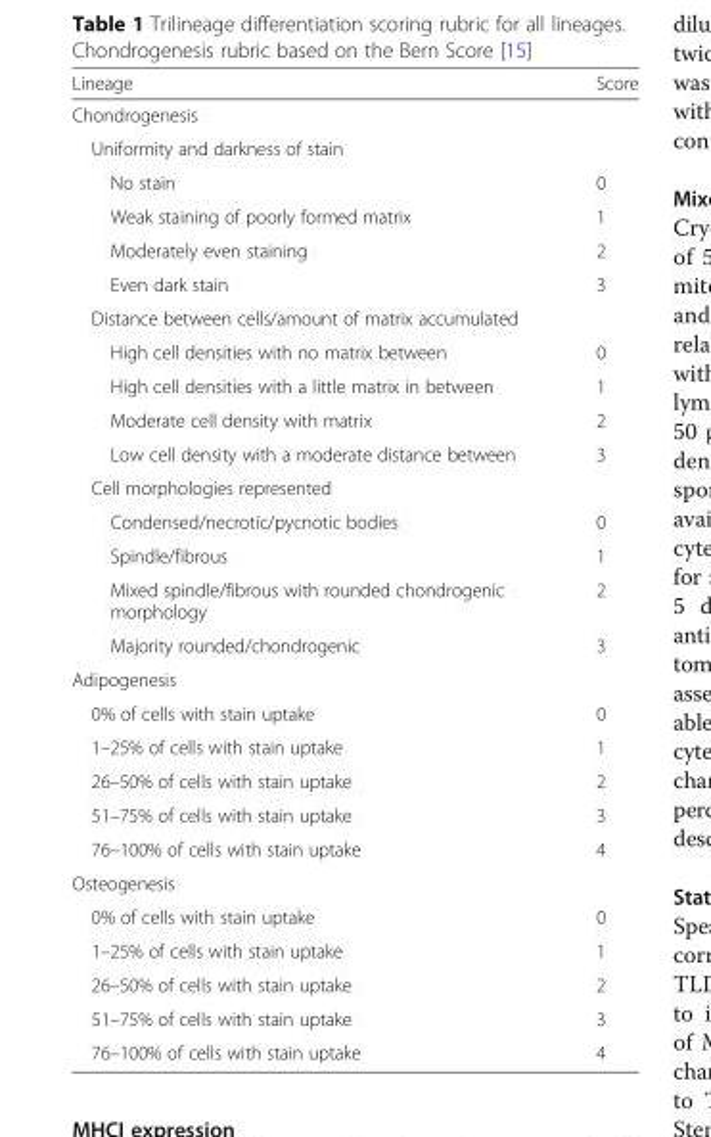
<table><thead><tr><td>Lineage</td><td>Score</td></tr></thead><tbody><tr><td colspan="2">Chondrogenesis</td></tr><tr><td colspan="2">Uniformity and darkness of stain</td></tr><tr><td>No stain</td><td>0</td></tr><tr><td>Weak staining of poorly formed matrix</td><td>1</td></tr><tr><td>Moderately even staining</td><td>2</td></tr><tr><td>Even dark stain</td><td>3</td></tr><tr><td colspan="2">Distance between cells/amount of matrix accumulated</td></tr><tr><td>High cell densities with no matrix between</td><td>0</td></tr><tr><td>High cell densities with a little matrix in between</td><td>1</td></tr><tr><td>Moderate cell density with matrix</td><td>2</td></tr><tr><td>Low cell density with a moderate distance between</td><td>3</td></tr><tr><td colspan="2">Cell morphologies represented</td></tr><tr><td>Condensed/necrotic/pycnotic bodies</td><td>0</td></tr><tr><td>Spindle/fibrous</td><td>1</td></tr><tr><td>Mixed spindle/fibrous with rounded chondrogenic morphology</td><td>2</td></tr><tr><td>Majority rounded/chondrogenic</td><td>3</td></tr><tr><td colspan="2">Adipogenesis</td></tr><tr><td>0% of cells with stain uptake</td><td>0</td></tr><tr><td>1–25% of cells with stain uptake</td><td>1</td></tr><tr><td>26–50% of cells with stain uptake</td><td>2</td></tr><tr><td>51–75% of cells with stain uptake</td><td>3</td></tr><tr><td>76–100% of cells with stain uptake</td><td>4</td></tr><tr><td colspan="2">Osteogenesis</td></tr><tr><td>0% of cells with stain uptake</td><td>0</td></tr><tr><td>1–25% of cells with stain uptake</td><td>1</td></tr><tr><td>26–50% of cells with stain uptake</td><td>2</td></tr><tr><td>51–75% of cells with stain uptake</td><td>3</td></tr><tr><td>76–100% of cells with stain uptake</td><td>4</td></tr></tbody></table>